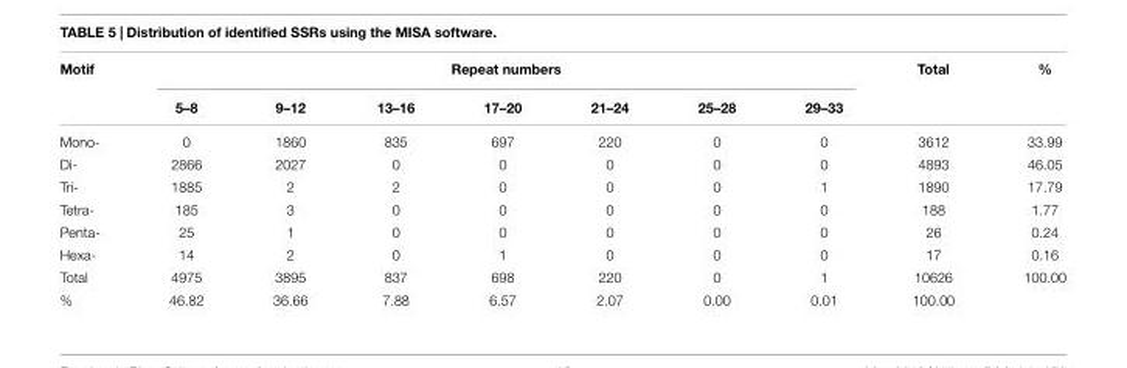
<table><thead><tr><td rowspan="2">Motif</td><td colspan="7">Repeat numbers</td><td rowspan="2">Total</td><td rowspan="2">%</td></tr><tr><td>5–8</td><td>9–12</td><td>13–16</td><td>17–20</td><td>21–24</td><td>25–28</td><td>29–33</td></tr></thead><tbody><tr><td>Mono-</td><td>0</td><td>1860</td><td>835</td><td>697</td><td>220</td><td>0</td><td>0</td><td>3612</td><td>33.99</td></tr><tr><td>Di-</td><td>2866</td><td>2027</td><td>0</td><td>0</td><td>0</td><td>0</td><td>0</td><td>4893</td><td>46.05</td></tr><tr><td>Tri-</td><td>1885</td><td>2</td><td>2</td><td>0</td><td>0</td><td>0</td><td>1</td><td>1890</td><td>17.79</td></tr><tr><td>Tetra-</td><td>185</td><td>3</td><td>0</td><td>0</td><td>0</td><td>0</td><td>0</td><td>188</td><td>1.77</td></tr><tr><td>Penta-</td><td>25</td><td>1</td><td>0</td><td>0</td><td>0</td><td>0</td><td>0</td><td>26</td><td>0.24</td></tr><tr><td>Hexa-</td><td>14</td><td>2</td><td>0</td><td>1</td><td>0</td><td>0</td><td>0</td><td>17</td><td>0.16</td></tr><tr><td>Total</td><td>4975</td><td>3895</td><td>837</td><td>698</td><td>220</td><td>0</td><td>1</td><td>10626</td><td>100.00</td></tr><tr><td>%</td><td>46.82</td><td>36.66</td><td>7.88</td><td>6.57</td><td>2.07</td><td>0.00</td><td>0.01</td><td>100.00</td><td></td></tr></tbody></table>